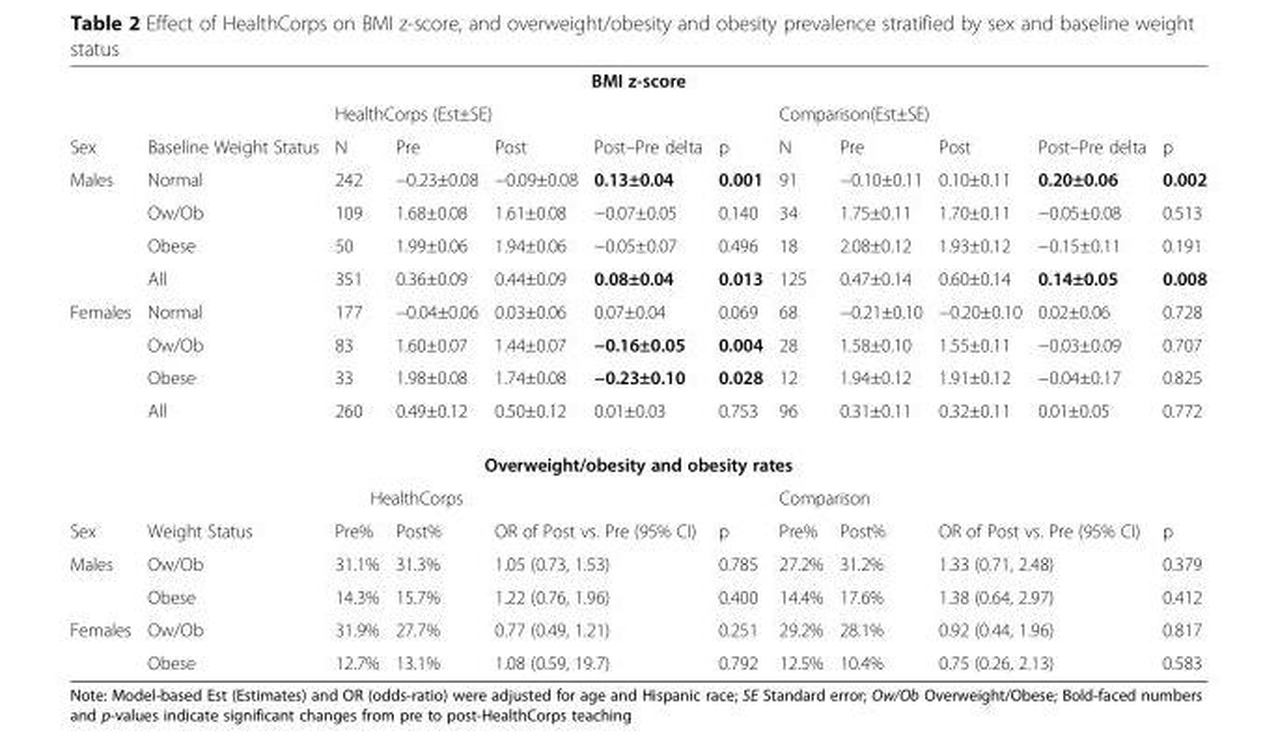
<table><tbody><tr><td colspan="12">BMI z-score</td></tr><tr><td></td><td></td><td colspan="5">HealthCorps (Est±SE)</td><td colspan="5">Comparison(Est±SE)</td></tr><tr><td>Sex</td><td>Baseline Weight Status</td><td>N</td><td>Pre</td><td>Post</td><td>Post–Pre delta</td><td>p</td><td>N</td><td>Pre</td><td>Post</td><td>Post–Pre delta</td><td>p</td></tr><tr><td rowspan="4">Males</td><td>Normal</td><td>242</td><td>−0.23±0.08</td><td>−0.09±0.08</td><td>0.13±0.04</td><td>0.001</td><td>91</td><td>−0.10±0.11</td><td>0.10±0.11</td><td>0.20±0.06</td><td>0.002</td></tr><tr><td>Ow/Ob</td><td>109</td><td>1.68±0.08</td><td>1.61±0.08</td><td>−0.07±0.05</td><td>0.140</td><td>34</td><td>1.75±0.11</td><td>1.70±0.11</td><td>−0.05±0.08</td><td>0.513</td></tr><tr><td>Obese</td><td>50</td><td>1.99±0.06</td><td>1.94±0.06</td><td>−0.05±0.07</td><td>0.496</td><td>18</td><td>2.08±0.12</td><td>1.93±0.12</td><td>−0.15±0.11</td><td>0.191</td></tr><tr><td>All</td><td>351</td><td>0.36±0.09</td><td>0.44±0.09</td><td>0.08±0.04</td><td>0.013</td><td>125</td><td>0.47±0.14</td><td>0.60±0.14</td><td>0.14±0.05</td><td>0.008</td></tr><tr><td rowspan="4">Females</td><td>Normal</td><td>177</td><td>−0.04±0.06</td><td>0.03±0.06</td><td>0.07±0.04</td><td>0.069</td><td>68</td><td>−0.21±0.10</td><td>−0.20±0.10</td><td>0.02±0.06</td><td>0.728</td></tr><tr><td>Ow/Ob</td><td>83</td><td>1.60±0.07</td><td>1.44±0.07</td><td>−0.16±0.05</td><td>0.004</td><td>28</td><td>1.58±0.10</td><td>1.55±0.11</td><td>−0.03±0.09</td><td>0.707</td></tr><tr><td>Obese</td><td>33</td><td>1.98±0.08</td><td>1.74±0.08</td><td>−0.23±0.10</td><td>0.028</td><td>12</td><td>1.94±0.12</td><td>1.91±0.12</td><td>−0.04±0.17</td><td>0.825</td></tr><tr><td>All</td><td>260</td><td>0.49±0.12</td><td>0.50±0.12</td><td>0.01±0.03</td><td>0.753</td><td>96</td><td>0.31±0.11</td><td>0.32±0.11</td><td>0.01±0.05</td><td>0.772</td></tr><tr><td colspan="12">Overweight/obesity and obesity rates</td></tr><tr><td colspan="7">HealthCorps</td><td colspan="5">Comparison</td></tr><tr><td>Sex</td><td>Weight Status</td><td>Pre%</td><td>Post%</td><td colspan="2">OR of Post vs. Pre (95% CI)</td><td>p</td><td>Pre%</td><td>Post%</td><td colspan="2">OR of Post vs. Pre (95% CI)</td><td>p</td></tr><tr><td rowspan="2">Males</td><td>Ow/Ob</td><td>31.1%</td><td>31.3%</td><td colspan="2">1.05 (0.73, 1.53)</td><td>0.785</td><td>27.2%</td><td>31.2%</td><td colspan="2">1.33 (0.71, 2.48)</td><td>0.379</td></tr><tr><td>Obese</td><td>14.3%</td><td>15.7%</td><td colspan="2">1.22 (0.76, 1.96)</td><td>0.400</td><td>14.4%</td><td>17.6%</td><td colspan="2">1.38 (0.64, 2.97)</td><td>0.412</td></tr><tr><td rowspan="2">Females</td><td>Ow/Ob</td><td>31.9%</td><td>27.7%</td><td colspan="2">0.77 (0.49, 1.21)</td><td>0.251</td><td>29.2%</td><td>28.1%</td><td colspan="2">0.92 (0.44, 1.96)</td><td>0.817</td></tr><tr><td>Obese</td><td>12.7%</td><td>13.1%</td><td colspan="2">1.08 (0.59, 19.7)</td><td>0.792</td><td>12.5%</td><td>10.4%</td><td colspan="2">0.75 (0.26, 2.13)</td><td>0.583</td></tr></tbody></table>